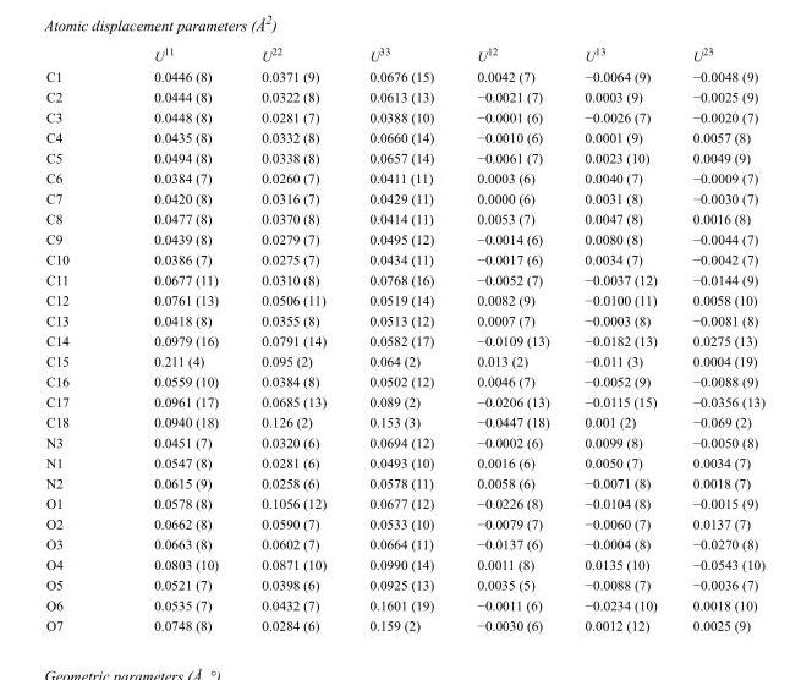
<table><thead><tr><td></td><td>U<sup>11</sup></td><td>U<sup>22</sup></td><td>U<sup>33</sup></td><td>U<sup>12</sup></td><td>U<sup>13</sup></td><td>U<sup>23</sup></td></tr></thead><tbody><tr><td>C1</td><td>0.0446 (8)</td><td>0.0371 (9)</td><td>0.0676 (15)</td><td>0.0042 (7)</td><td>−0.0064 (9)</td><td>−0.0048 (9)</td></tr><tr><td>C2</td><td>0.0444 (8)</td><td>0.0322 (8)</td><td>0.0613 (13)</td><td>−0.0021 (7)</td><td>0.0003 (9)</td><td>−0.0025 (9)</td></tr><tr><td>C3</td><td>0.0448 (8)</td><td>0.0281 (7)</td><td>0.0388 (10)</td><td>−0.0001 (6)</td><td>−0.0026 (7)</td><td>−0.0020 (7)</td></tr><tr><td>C4</td><td>0.0435 (8)</td><td>0.0332 (8)</td><td>0.0660 (14)</td><td>−0.0010 (6)</td><td>0.0001 (9)</td><td>0.0057 (8)</td></tr><tr><td>C5</td><td>0.0494 (8)</td><td>0.0338 (8)</td><td>0.0657 (14)</td><td>−0.0061 (7)</td><td>0.0023 (10)</td><td>0.0049 (9)</td></tr><tr><td>C6</td><td>0.0384 (7)</td><td>0.0260 (7)</td><td>0.0411 (11)</td><td>0.0003 (6)</td><td>0.0040 (7)</td><td>−0.0009 (7)</td></tr><tr><td>C7</td><td>0.0420 (8)</td><td>0.0316 (7)</td><td>0.0429 (11)</td><td>0.0000 (6)</td><td>0.0031 (8)</td><td>−0.0030 (7)</td></tr><tr><td>C8</td><td>0.0477 (8)</td><td>0.0370 (8)</td><td>0.0414 (11)</td><td>0.0053 (7)</td><td>0.0047 (8)</td><td>0.0016 (8)</td></tr><tr><td>C9</td><td>0.0439 (8)</td><td>0.0279 (7)</td><td>0.0495 (12)</td><td>−0.0014 (6)</td><td>0.0080 (8)</td><td>−0.0044 (7)</td></tr><tr><td>C10</td><td>0.0386 (7)</td><td>0.0275 (7)</td><td>0.0434 (11)</td><td>−0.0017 (6)</td><td>0.0034 (7)</td><td>−0.0042 (7)</td></tr><tr><td>C11</td><td>0.0677 (11)</td><td>0.0310 (8)</td><td>0.0768 (16)</td><td>−0.0052 (7)</td><td>−0.0037 (12)</td><td>−0.0144 (9)</td></tr><tr><td>C12</td><td>0.0761 (13)</td><td>0.0506 (11)</td><td>0.0519 (14)</td><td>0.0082 (9)</td><td>−0.0100 (11)</td><td>0.0058 (10)</td></tr><tr><td>C13</td><td>0.0418 (8)</td><td>0.0355 (8)</td><td>0.0513 (12)</td><td>0.0007 (7)</td><td>−0.0003 (8)</td><td>−0.0081 (8)</td></tr><tr><td>C14</td><td>0.0979 (16)</td><td>0.0791 (14)</td><td>0.0582 (17)</td><td>−0.0109 (13)</td><td>−0.0182 (13)</td><td>0.0275 (13)</td></tr><tr><td>C15</td><td>0.211 (4)</td><td>0.095 (2)</td><td>0.064 (2)</td><td>0.013 (2)</td><td>−0.011 (3)</td><td>0.0004 (19)</td></tr><tr><td>C16</td><td>0.0559 (10)</td><td>0.0384 (8)</td><td>0.0502 (12)</td><td>0.0046 (7)</td><td>−0.0052 (9)</td><td>−0.0088 (9)</td></tr><tr><td>C17</td><td>0.0961 (17)</td><td>0.0685 (13)</td><td>0.089 (2)</td><td>−0.0206 (13)</td><td>−0.0115 (15)</td><td>−0.0356 (13)</td></tr><tr><td>C18</td><td>0.0940 (18)</td><td>0.126 (2)</td><td>0.153 (3)</td><td>−0.0447 (18)</td><td>0.001 (2)</td><td>−0.069 (2)</td></tr><tr><td>N3</td><td>0.0451 (7)</td><td>0.0320 (6)</td><td>0.0694 (12)</td><td>−0.0002 (6)</td><td>0.0099 (8)</td><td>−0.0050 (8)</td></tr><tr><td>N1</td><td>0.0547 (8)</td><td>0.0281 (6)</td><td>0.0493 (10)</td><td>0.0016 (6)</td><td>0.0050 (7)</td><td>0.0034 (7)</td></tr><tr><td>N2</td><td>0.0615 (9)</td><td>0.0258 (6)</td><td>0.0578 (11)</td><td>0.0058 (6)</td><td>−0.0071 (8)</td><td>0.0018 (7)</td></tr><tr><td>O1</td><td>0.0578 (8)</td><td>0.1056 (12)</td><td>0.0677 (12)</td><td>−0.0226 (8)</td><td>−0.0104 (8)</td><td>−0.0015 (9)</td></tr><tr><td>O2</td><td>0.0662 (8)</td><td>0.0590 (7)</td><td>0.0533 (10)</td><td>−0.0079 (7)</td><td>−0.0060 (7)</td><td>0.0137 (7)</td></tr><tr><td>O3</td><td>0.0663 (8)</td><td>0.0602 (7)</td><td>0.0664 (11)</td><td>−0.0137 (6)</td><td>−0.0004 (8)</td><td>−0.0270 (8)</td></tr><tr><td>O4</td><td>0.0803 (10)</td><td>0.0871 (10)</td><td>0.0990 (14)</td><td>0.0011 (8)</td><td>0.0135 (10)</td><td>−0.0543 (10)</td></tr><tr><td>O5</td><td>0.0521 (7)</td><td>0.0398 (6)</td><td>0.0925 (13)</td><td>0.0035 (5)</td><td>−0.0088 (7)</td><td>−0.0036 (7)</td></tr><tr><td>O6</td><td>0.0535 (7)</td><td>0.0432 (7)</td><td>0.1601 (19)</td><td>−0.0011 (6)</td><td>−0.0234 (10)</td><td>0.0018 (10)</td></tr><tr><td>O7</td><td>0.0748 (8)</td><td>0.0284 (6)</td><td>0.159 (2)</td><td>−0.0030 (6)</td><td>0.0012 (12)</td><td>0.0025 (9)</td></tr></tbody></table>